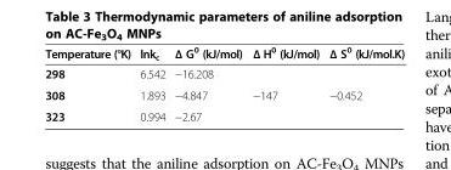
<table><thead><tr><td>Temperature (°K)</td><td>lnk<sub>c</sub></td><td>Δ G0 (kJ/mol)</td><td>Δ H0 (kJ/mol)</td><td>Δ S0 (kJ/mol.K)</td></tr></thead><tbody><tr><td>298</td><td>6.542</td><td>−16.208</td><td></td><td></td></tr><tr><td>308</td><td>1.893</td><td>−4.847</td><td>−147</td><td>−0.452</td></tr><tr><td>323</td><td>0.994</td><td>−2.67</td><td></td><td></td></tr></tbody></table>